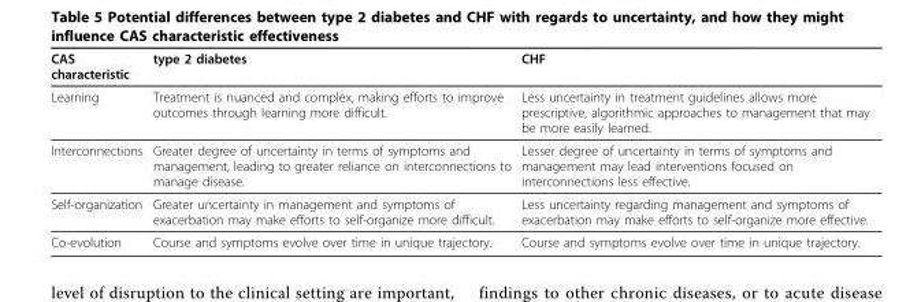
<table><thead><tr><td>CAS characteristic</td><td>type 2 diabetes</td><td>CHF</td></tr></thead><tbody><tr><td>Learning</td><td>Treatment is nuanced and complex, making efforts to improve outcomes through learning more difficult.</td><td>Less uncertainty in treatment guidelines allows more prescriptive, algorithmic approaches to management that may be more easily learned.</td></tr><tr><td>Interconnections</td><td>Greater degree of uncertainty in terms of symptoms and management, leading to greater reliance on interconnections to manage disease.</td><td>Lesser degree of uncertainty in terms of symptoms and management may lead interventions focused on interconnections less effective.</td></tr><tr><td>Self-organization</td><td>Greater uncertainty in management and symptoms of exacerbation may make efforts to self-organize more difficult.</td><td>Less uncertainty regarding management and symptoms of exacerbation may make efforts to self-organize more effective.</td></tr><tr><td>Co-evolution</td><td>Course and symptoms evolve over time in unique trajectory.</td><td>Course and symptoms evolve over time in unique trajectory.</td></tr></tbody></table>